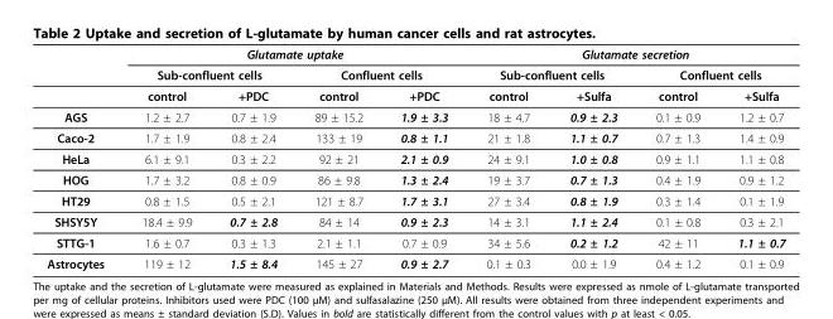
<table><thead><tr><td rowspan="3"></td><td colspan="4">Glutamate uptake</td><td colspan="4">Glutamate secretion</td></tr><tr><td colspan="2">Sub-confluent cells</td><td colspan="2">Confluent cells</td><td colspan="2">Sub-confluent cells</td><td colspan="2">Confluent cells</td></tr><tr><td>control</td><td>+PDC</td><td>control</td><td>+PDC</td><td>control</td><td>+Sulfa</td><td>control</td><td>+Sulfa</td></tr></thead><tbody><tr><td>AGS</td><td>1.2 ± 2.7</td><td>0.7 ± 1.9</td><td>89 ± 15.2</td><td>1.9 ± 3.3</td><td>18 ± 4.7</td><td>0.9 ± 2.3</td><td>0.1 ± 0.9</td><td>1.2 ± 0.7</td></tr><tr><td>Caco-2</td><td>1.7 ± 1.9</td><td>0.8 ± 2.4</td><td>133 ± 19</td><td>0.8 ± 1.1</td><td>21 ± 1.8</td><td>1.1 ± 0.7</td><td>0.7 ± 1.3</td><td>1.4 ± 0.9</td></tr><tr><td>HeLa</td><td>6.1 ± 9.1</td><td>0.3 ± 2.2</td><td>92 ± 21</td><td>2.1 ± 0.9</td><td>24 ± 9.1</td><td>1.0 ± 0.8</td><td>0.9 ± 1.1</td><td>1.1 ± 0.8</td></tr><tr><td>HOG</td><td>1.7 ± 3.2</td><td>0.8 ± 0.9</td><td>86 ± 9.8</td><td>1.3 ± 2.4</td><td>19 ± 3.7</td><td>0.7 ± 1.3</td><td>0.4 ± 1.9</td><td>0.9 ± 1.2</td></tr><tr><td>HT29</td><td>0.8 ± 1.5</td><td>0.5 ± 2.1</td><td>121 ± 8.7</td><td>1.7 ± 3.1</td><td>27 ± 3.4</td><td>0.8 ± 1.9</td><td>0.3 ± 1.4</td><td>0.1 ± 1.9</td></tr><tr><td>SHSY5Y</td><td>18.4 ± 9.9</td><td>0.7 ± 2.8</td><td>84 ± 14</td><td>0.9 ± 2.3</td><td>14 ± 3.1</td><td>1.1 ± 2.4</td><td>0.1 ± 0.8</td><td>0.3 ± 2.1</td></tr><tr><td>STTG-1</td><td>1.6 ± 0.7</td><td>0.3 ± 1.3</td><td>2.1 ± 1.1</td><td>0.7 ± 0.9</td><td>34 ± 5.6</td><td>0.2 ± 1.2</td><td>42 ± 11</td><td>1.1 ± 0.7</td></tr><tr><td>Astrocytes</td><td>119 ± 12</td><td>1.5 ± 8.4</td><td>145 ± 27</td><td>0.9 ± 2.7</td><td>0.1 ± 0.3</td><td>0.0 ± 1.9</td><td>0.4 ± 1.2</td><td>0.1 ± 0.9</td></tr></tbody></table>